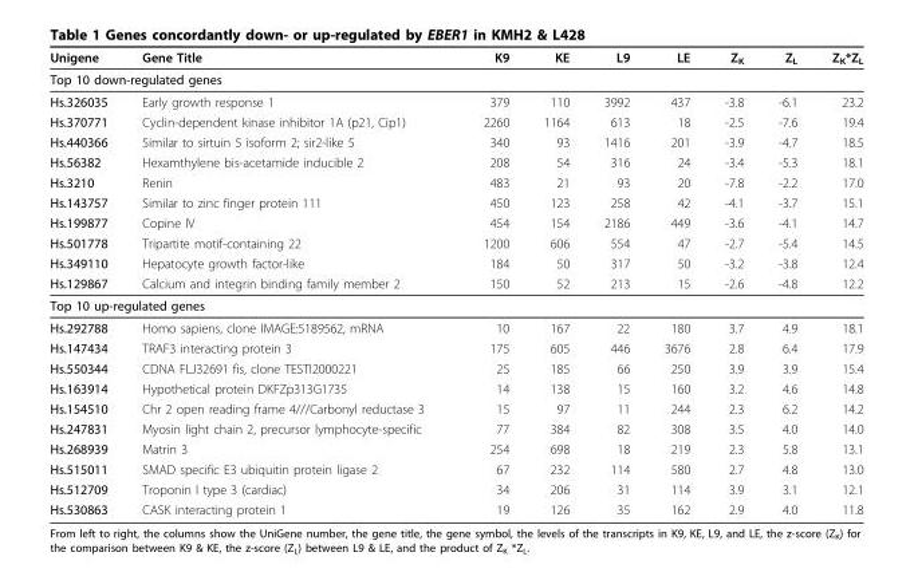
<table><thead><tr><td>Unigene</td><td>Gene Title</td><td>K9</td><td>KE</td><td>L9</td><td>LE</td><td>Z<sub>K</sub></td><td>Z<sub>L</sub></td><td>Z<sub>K</sub>*Z<sub>L</sub></td></tr></thead><tbody><tr><td colspan="9">Top 10 down-regulated genes</td></tr><tr><td>Hs.326035</td><td>Early growth response 1</td><td>379</td><td>110</td><td>3992</td><td>437</td><td>-3.8</td><td>-6.1</td><td>23.2</td></tr><tr><td>Hs.370771</td><td>Cyclin-dependent kinase inhibitor 1A (p21, Cip1)</td><td>2260</td><td>1164</td><td>613</td><td>18</td><td>-2.5</td><td>-7.6</td><td>19.4</td></tr><tr><td>Hs.440366</td><td>Similar to sirtuin 5 isoform 2; sir2-like 5</td><td>340</td><td>93</td><td>1416</td><td>201</td><td>-3.9</td><td>-4.7</td><td>18.5</td></tr><tr><td>Hs.56382</td><td>Hexamthylene bis-acetamide inducible 2</td><td>208</td><td>54</td><td>316</td><td>24</td><td>-3.4</td><td>-5.3</td><td>18.1</td></tr><tr><td>Hs.3210</td><td>Renin</td><td>483</td><td>21</td><td>93</td><td>20</td><td>-7.8</td><td>-2.2</td><td>17.0</td></tr><tr><td>Hs.143757</td><td>Similar to zinc finger protein 111</td><td>450</td><td>123</td><td>258</td><td>42</td><td>-4.1</td><td>-3.7</td><td>15.1</td></tr><tr><td>Hs.199877</td><td>Copine IV</td><td>454</td><td>154</td><td>2186</td><td>449</td><td>-3.6</td><td>-4.1</td><td>14.7</td></tr><tr><td>Hs.501778</td><td>Tripartite motif-containing 22</td><td>1200</td><td>606</td><td>554</td><td>47</td><td>-2.7</td><td>-5.4</td><td>14.5</td></tr><tr><td>Hs.349110</td><td>Hepatocyte growth factor-like</td><td>184</td><td>50</td><td>317</td><td>50</td><td>-3.2</td><td>-3.8</td><td>12.4</td></tr><tr><td>Hs.129867</td><td>Calcium and integrin binding family member 2</td><td>150</td><td>52</td><td>213</td><td>15</td><td>-2.6</td><td>-4.8</td><td>12.2</td></tr><tr><td colspan="9">Top 10 up-regulated genes</td></tr><tr><td>Hs.292788</td><td>Homo sapiens, clone IMAGE:5189562, mRNA</td><td>10</td><td>167</td><td>22</td><td>180</td><td>3.7</td><td>4.9</td><td>18.1</td></tr><tr><td>Hs.147434</td><td>TRAF3 interacting protein 3</td><td>175</td><td>605</td><td>446</td><td>3676</td><td>2.8</td><td>6.4</td><td>17.9</td></tr><tr><td>Hs.550344</td><td>CDNA FLJ32691 fis, clone TESTI2000221</td><td>25</td><td>185</td><td>66</td><td>250</td><td>3.9</td><td>3.9</td><td>15.4</td></tr><tr><td>Hs.163914</td><td>Hypothetical protein DKFZp313G1735</td><td>14</td><td>138</td><td>15</td><td>160</td><td>3.2</td><td>4.6</td><td>14.8</td></tr><tr><td>Hs.154510</td><td>Chr 2 open reading frame 4///Carbonyl reductase 3</td><td>15</td><td>97</td><td>11</td><td>244</td><td>2.3</td><td>6.2</td><td>14.2</td></tr><tr><td>Hs.247831</td><td>Myosin light chain 2, precursor lymphocyte-specific</td><td>77</td><td>384</td><td>82</td><td>308</td><td>3.5</td><td>4.0</td><td>14.0</td></tr><tr><td>Hs.268939</td><td>Matrin 3</td><td>254</td><td>698</td><td>18</td><td>219</td><td>2.3</td><td>5.8</td><td>13.1</td></tr><tr><td>Hs.515011</td><td>SMAD specific E3 ubiquitin protein ligase 2</td><td>67</td><td>232</td><td>114</td><td>580</td><td>2.7</td><td>4.8</td><td>13.0</td></tr><tr><td>Hs.512709</td><td>Troponin I type 3 (cardiac)</td><td>34</td><td>206</td><td>31</td><td>114</td><td>3.9</td><td>3.1</td><td>12.1</td></tr><tr><td>Hs.530863</td><td>CASK interacting protein 1</td><td>19</td><td>126</td><td>35</td><td>162</td><td>2.9</td><td>4.0</td><td>11.8</td></tr></tbody></table>